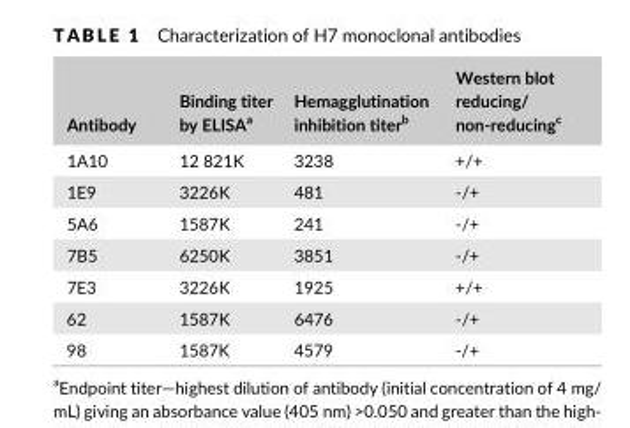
<table><thead><tr><td>Antibody</td><td>Binding titer by ELISA<sup>a</sup></td><td>Hemagglutination inhibition titer<sup>b</sup></td><td>Western blot reducing/ non- reducing<sup>c</sup></td></tr></thead><tbody><tr><td>1A10</td><td>12 821K</td><td>3238</td><td>+/+</td></tr><tr><td>1E9</td><td>3226K</td><td>481</td><td>- /+</td></tr><tr><td>5A6</td><td>1587K</td><td>241</td><td>- /+</td></tr><tr><td>7B5</td><td>6250K</td><td>3851</td><td>- /+</td></tr><tr><td>7E3</td><td>3226K</td><td>1925</td><td>+/+</td></tr><tr><td>62</td><td>1587K</td><td>6476</td><td>- /+</td></tr><tr><td>98</td><td>1587K</td><td>4579</td><td>- /+</td></tr></tbody></table>